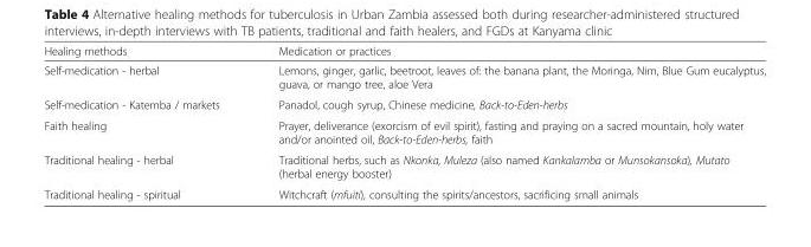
<table><thead><tr><td>Healing methods</td><td>Medication or practices</td></tr></thead><tbody><tr><td>Self-medication - herbal</td><td>Lemons, ginger, garlic, beetroot, leaves of: the banana plant, the Moringa, Nim, Blue Gum eucalyptus, guava, or mango tree, aloe Vera</td></tr><tr><td>Self-medication - Katemba / markets</td><td>Panadol, cough syrup, Chinese medicine, Back-to-Eden-herbs</td></tr><tr><td>Faith healing</td><td>Prayer, deliverance (exorcism of evil spirit), fasting and praying on a sacred mountain, holy water and/or anointed oil, Back-to-Eden-herbs, faith</td></tr><tr><td>Traditional healing - herbal</td><td>Traditional herbs, such as Nkonka, Muleza (also named Kankalamba or Munsokansoka), Mutato (herbal energy booster)</td></tr><tr><td>Traditional healing - spiritual</td><td>Witchcraft (mfuiti), consulting the spirits/ancestors, sacrificing small animals</td></tr></tbody></table>